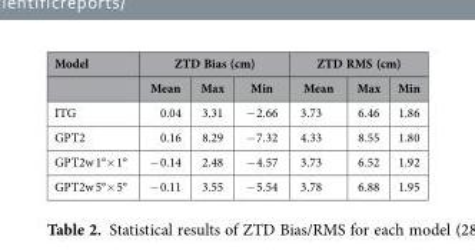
<table><thead><tr><td rowspan="2">Model</td><td colspan="3">ZTD Bias (cm)</td><td colspan="3">ZTD RMS (cm)</td></tr><tr><td>Mean</td><td>Max</td><td>Min</td><td>Mean</td><td>Max</td><td>Min</td></tr></thead><tbody><tr><td>ITG</td><td>0.04</td><td>3.31</td><td>− 2.66</td><td>3.73</td><td>6.46</td><td>1.86</td></tr><tr><td>GPT2</td><td>0.16</td><td>8.29</td><td>− 7.32</td><td>4.33</td><td>8.55</td><td>1.80</td></tr><tr><td>GPT2w 1°× 1°</td><td>− 0.14</td><td>2.48</td><td>− 4.57</td><td>3.73</td><td>6.52</td><td>1.92</td></tr><tr><td>GPT2w 5°× 5°</td><td>− 0.11</td><td>3.55</td><td>− 5.54</td><td>3.78</td><td>6.88</td><td>1.95</td></tr></tbody></table>